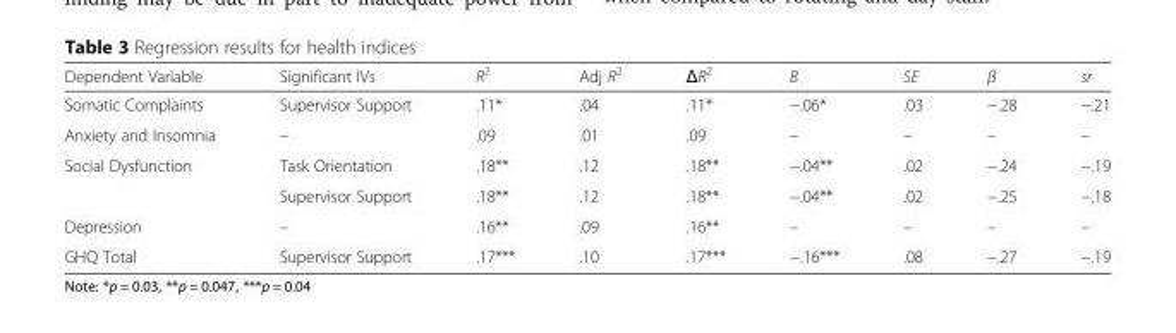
<table><thead><tr><td>Dependent Variable</td><td>Significant IVs</td><td>R<sup>2</sup></td><td>Adj R<sup>2</sup></td><td>ΔR<sup>2</sup></td><td>B</td><td>SE</td><td>β</td><td>sr</td></tr></thead><tbody><tr><td>Somatic Complaints</td><td>Supervisor Support</td><td>.11*</td><td>.04</td><td>.11*</td><td>−.06*</td><td>.03</td><td>−.28</td><td>−.21</td></tr><tr><td>Anxiety and Insomnia</td><td>–</td><td>.09</td><td>.01</td><td>.09</td><td>–</td><td>–</td><td>–</td><td>–</td></tr><tr><td rowspan="2">Social Dysfunction</td><td>Task Orientation</td><td>.18**</td><td>.12</td><td>.18**</td><td>−.04**</td><td>.02</td><td>−.24</td><td>−.19</td></tr><tr><td>Supervisor Support</td><td>.18**</td><td>.12</td><td>.18**</td><td>−.04**</td><td>.02</td><td>−.25</td><td>−.18</td></tr><tr><td>Depression</td><td>–</td><td>.16**</td><td>.09</td><td>.16**</td><td>–</td><td>–</td><td>–</td><td>–</td></tr><tr><td>GHQ Total</td><td>Supervisor Support</td><td>.17***</td><td>.10</td><td>.17***</td><td>−.16***</td><td>.08</td><td>−.27</td><td>−.19</td></tr></tbody></table>